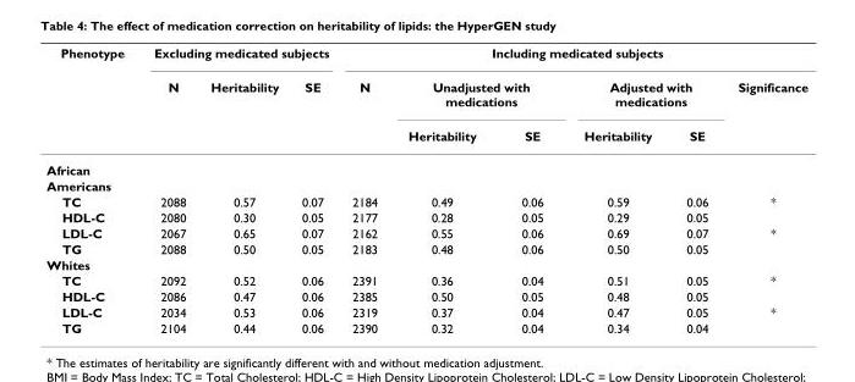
<table><thead><tr><td rowspan="3">Phenotype</td><td colspan="3">Excluding medicated subjects</td><td colspan="6">Including medicated subjects</td></tr><tr><td rowspan="2">N</td><td rowspan="2">Heritability</td><td rowspan="2">SE</td><td rowspan="2">N</td><td colspan="2">Unadjusted with medications</td><td colspan="2">Adjusted with medications</td><td rowspan="2">Significance</td></tr><tr><td>Heritability</td><td>SE</td><td>Heritability</td><td>SE</td></tr></thead><tbody><tr><td colspan="10">African</td></tr><tr><td colspan="10">Americans</td></tr><tr><td>TC</td><td>2088</td><td>0.57</td><td>0.07</td><td>2184</td><td>0.49</td><td>0.06</td><td>0.59</td><td>0.06</td><td>*</td></tr><tr><td>HDL-C</td><td>2080</td><td>0.30</td><td>0.05</td><td>2177</td><td>0.28</td><td>0.05</td><td>0.29</td><td>0.05</td><td></td></tr><tr><td>LDL-C</td><td>2067</td><td>0.65</td><td>0.07</td><td>2162</td><td>0.55</td><td>0.06</td><td>0.69</td><td>0.07</td><td>*</td></tr><tr><td>TG</td><td>2088</td><td>0.50</td><td>0.05</td><td>2183</td><td>0.48</td><td>0.06</td><td>0.50</td><td>0.05</td><td></td></tr><tr><td colspan="10">Whites</td></tr><tr><td>TC</td><td>2092</td><td>0.52</td><td>0.06</td><td>2391</td><td>0.36</td><td>0.04</td><td>0.51</td><td>0.05</td><td>*</td></tr><tr><td>HDL-C</td><td>2086</td><td>0.47</td><td>0.06</td><td>2385</td><td>0.50</td><td>0.05</td><td>0.48</td><td>0.05</td><td></td></tr><tr><td>LDL-C</td><td>2034</td><td>0.53</td><td>0.06</td><td>2319</td><td>0.37</td><td>0.04</td><td>0.47</td><td>0.05</td><td>*</td></tr><tr><td>TG</td><td>2104</td><td>0.44</td><td>0.06</td><td>2390</td><td>0.32</td><td>0.04</td><td>0.34</td><td>0.04</td><td></td></tr></tbody></table>